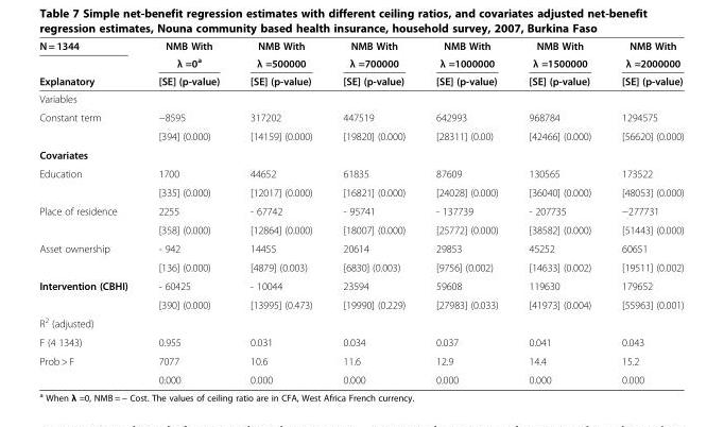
<table><thead><tr><td rowspan="3">N = 1344 Explanatory</td><td rowspan="3">NMB With λ =0<sup>a</sup> [SE] (p-value)</td><td rowspan="3">NMB With λ =500000 [SE] (p-value)</td><td rowspan="3">NMB With λ =700000 [SE] (p-value)</td><td rowspan="3">NMB With λ =1000000 [SE] (p-value)</td><td rowspan="3">NMB With λ =1500000 [SE] (p-value)</td><td rowspan="3">NMB With λ =2000000 [SE] (p-value)</td></tr><tr></tr><tr></tr></thead><tbody><tr><td colspan="7">Variables</td></tr><tr><td rowspan="2">Constant term</td><td>−8595</td><td>317202</td><td>447519</td><td>642993</td><td>968784</td><td>1294575</td></tr><tr><td>[394] (0.000)</td><td>[14159] (0.000)</td><td>[19820] (0.000)</td><td>[28311] (0.00)</td><td>[42466] (0.000)</td><td>[56620] (0.000)</td></tr><tr><td colspan="7">Covariates</td></tr><tr><td rowspan="2">Education</td><td>1700</td><td>44652</td><td>61835</td><td>87609</td><td>130565</td><td>173522</td></tr><tr><td>[335] (0.000)</td><td>[12017] (0.000)</td><td>[16821] (0.000)</td><td>[24028] (0.000)</td><td>[36040] (0.000)</td><td>[48053] (0.000)</td></tr><tr><td rowspan="2">Place of residence</td><td>2255</td><td>- 67742</td><td>- 95741</td><td>- 137739</td><td>- 207735</td><td>−277731</td></tr><tr><td>[358] (0.000)</td><td>[12864] (0.000)</td><td>[18007] (0.000)</td><td>[25772] (0.000)</td><td>[38582] (0.000)</td><td>[51443] (0.000)</td></tr><tr><td rowspan="2">Asset ownership</td><td>- 942</td><td>14455</td><td>20614</td><td>29853</td><td>45252</td><td>60651</td></tr><tr><td>[136] (0.000)</td><td>[4879] (0.003)</td><td>[6830] (0.003)</td><td>[9756] (0.002)</td><td>[14633] (0.002)</td><td>[19511] (0.002)</td></tr><tr><td rowspan="2">Intervention (CBHI)</td><td>- 60425</td><td>- 10044</td><td>23594</td><td>59608</td><td>119630</td><td>179652</td></tr><tr><td>[390] (0.000)</td><td>[13995] (0.473)</td><td>[19990] (0.229)</td><td>[27983] (0.033)</td><td>[41973] (0.004)</td><td>[55963] (0.001)</td></tr><tr><td colspan="7">R<sup>2</sup> (adjusted)</td></tr><tr><td>F (4 1343)</td><td>0.955</td><td>0.031</td><td>0.034</td><td>0.037</td><td>0.041</td><td>0.043</td></tr><tr><td rowspan="2">Prob &gt; F</td><td>7077</td><td>10.6</td><td>11.6</td><td>12.9</td><td>14.4</td><td>15.2</td></tr><tr><td>0.000</td><td>0.000</td><td>0.000</td><td>0.000</td><td>0.000</td><td>0.000</td></tr></tbody></table>